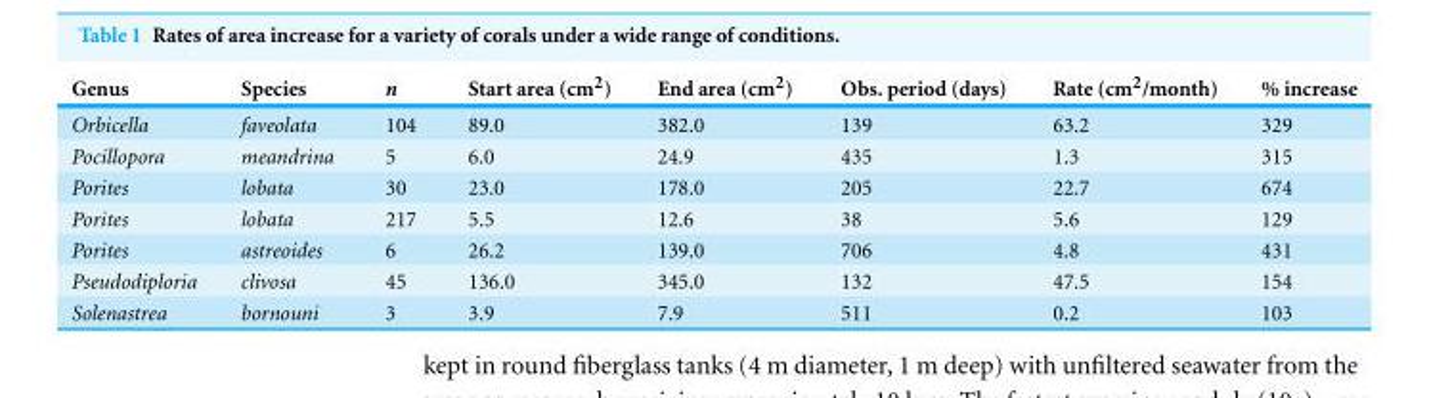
<table><thead><tr><td>Genus</td><td>Species</td><td>n</td><td>Start area (cm<sup>2</sup>)</td><td>End area (cm<sup>2</sup>)</td><td>Obs. period (days)</td><td>Rate (cm<sup>2</sup>/month)</td><td>% increase</td></tr></thead><tbody><tr><td>Orbicella</td><td>faveolata</td><td>104</td><td>89.0</td><td>382.0</td><td>139</td><td>63.2</td><td>329</td></tr><tr><td>Pocillopora</td><td>meandrina</td><td>5</td><td>6.0</td><td>24.9</td><td>435</td><td>1.3</td><td>315</td></tr><tr><td>Porites</td><td>lobata</td><td>30</td><td>23.0</td><td>178.0</td><td>205</td><td>22.7</td><td>674</td></tr><tr><td>Porites</td><td>lobata</td><td>217</td><td>5.5</td><td>12.6</td><td>38</td><td>5.6</td><td>129</td></tr><tr><td>Porites</td><td>astreoides</td><td>6</td><td>26.2</td><td>139.0</td><td>706</td><td>4.8</td><td>431</td></tr><tr><td>Pseudodiploria</td><td>clivosa</td><td>45</td><td>136.0</td><td>345.0</td><td>132</td><td>47.5</td><td>154</td></tr><tr><td>Solenastrea</td><td>bornouni</td><td>3</td><td>3.9</td><td>7.9</td><td>511</td><td>0.2</td><td>103</td></tr></tbody></table>